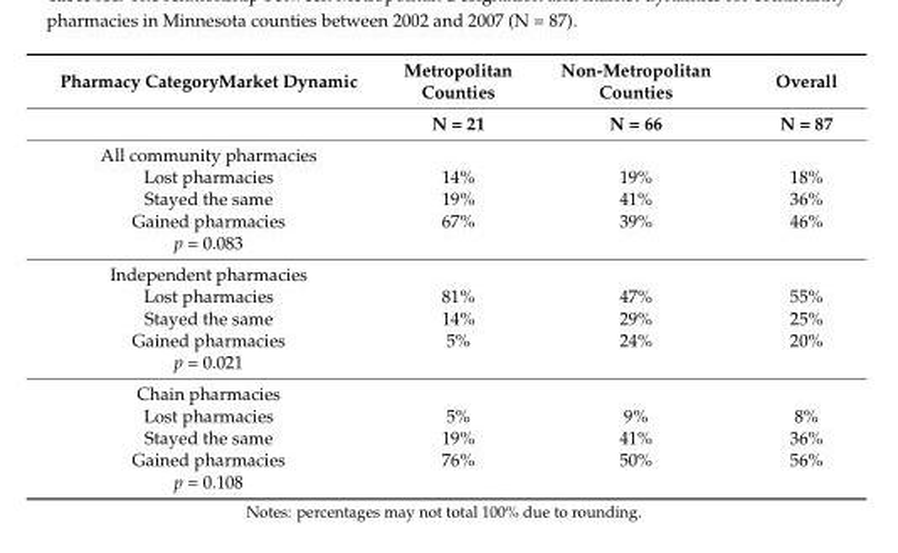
<table><thead><tr><td rowspan="2">Pharmacy CategoryMarket Dynamic</td><td rowspan="2">Metropolitan Counties N = 21</td><td rowspan="2">Non-Metropolitan Counties N = 66</td><td rowspan="2">Overall N = 87</td></tr><tr></tr></thead><tbody><tr><td colspan="4">All community pharmacies</td></tr><tr><td>Lost pharmacies</td><td>14%</td><td>19%</td><td>18%</td></tr><tr><td>Stayed the same</td><td>19%</td><td>41%</td><td>36%</td></tr><tr><td>Gained pharmacies</td><td>67%</td><td>39%</td><td>46%</td></tr><tr><td colspan="4">p = 0.083</td></tr><tr><td colspan="4">Independent pharmacies</td></tr><tr><td>Lost pharmacies</td><td>81%</td><td>47%</td><td>55%</td></tr><tr><td>Stayed the same</td><td>14%</td><td>29%</td><td>25%</td></tr><tr><td>Gained pharmacies</td><td>5%</td><td>24%</td><td>20%</td></tr><tr><td colspan="4">p = 0.021</td></tr><tr><td colspan="4">Chain pharmacies</td></tr><tr><td>Lost pharmacies</td><td>5%</td><td>9%</td><td>8%</td></tr><tr><td>Stayed the same</td><td>19%</td><td>41%</td><td>36%</td></tr><tr><td>Gained pharmacies</td><td>76%</td><td>50%</td><td>56%</td></tr><tr><td>p = 0.108</td><td></td><td></td><td></td></tr></tbody></table>